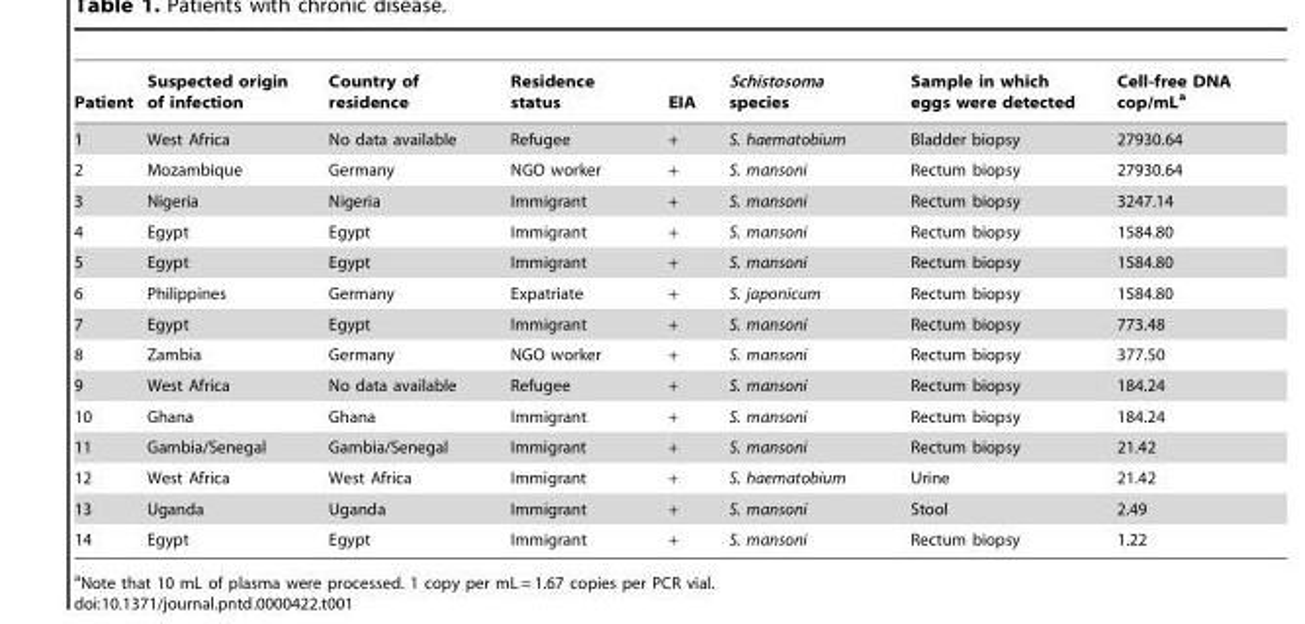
<table><thead><tr><td>Patient</td><td>Suspected origin of infection</td><td>Country of residence</td><td>Residence status</td><td>EIA</td><td>Schistosoma species</td><td>Sample in which eggs were detected</td><td>Cell-free DNA cop/mL<sup>a</sup></td></tr></thead><tbody><tr><td>1</td><td>West Africa</td><td>No data available</td><td>Refugee</td><td>+</td><td>S. haematobium</td><td>Bladder biopsy</td><td>27930.64</td></tr><tr><td>2</td><td>Mozambique</td><td>Germany</td><td>NGO worker</td><td>+</td><td>S. mansoni</td><td>Rectum biopsy</td><td>27930.64</td></tr><tr><td>3</td><td>Nigeria</td><td>Nigeria</td><td>Immigrant</td><td>+</td><td>S. mansoni</td><td>Rectum biopsy</td><td>3247.14</td></tr><tr><td>4</td><td>Egypt</td><td>Egypt</td><td>Immigrant</td><td>+</td><td>S. mansoni</td><td>Rectum biopsy</td><td>1584.80</td></tr><tr><td>5</td><td>Egypt</td><td>Egypt</td><td>Immigrant</td><td>+</td><td>S. mansoni</td><td>Rectum biopsy</td><td>1584.80</td></tr><tr><td>6</td><td>Philippines</td><td>Germany</td><td>Expatriate</td><td>+</td><td>S. japonicum</td><td>Rectum biopsy</td><td>1584.80</td></tr><tr><td>7</td><td>Egypt</td><td>Egypt</td><td>Immigrant</td><td>+</td><td>S. mansoni</td><td>Rectum biopsy</td><td>773.48</td></tr><tr><td>8</td><td>Zambia</td><td>Germany</td><td>NGO worker</td><td>+</td><td>S. mansoni</td><td>Rectum biopsy</td><td>377.50</td></tr><tr><td>9</td><td>West Africa</td><td>No data available</td><td>Refugee</td><td>+</td><td>S. mansoni</td><td>Rectum biopsy</td><td>184.24</td></tr><tr><td>10</td><td>Ghana</td><td>Ghana</td><td>Immigrant</td><td>+</td><td>S. mansoni</td><td>Rectum biopsy</td><td>184.24</td></tr><tr><td>11</td><td>Gambia/Senegal</td><td>Gambia/Senegal</td><td>Immigrant</td><td>+</td><td>S. mansoni</td><td>Rectum biopsy</td><td>21.42</td></tr><tr><td>12</td><td>West Africa</td><td>West Africa</td><td>Immigrant</td><td>+</td><td>S. haematobium</td><td>Urine</td><td>21.42</td></tr><tr><td>13</td><td>Uganda</td><td>Uganda</td><td>Immigrant</td><td>+</td><td>S. mansoni</td><td>Stool</td><td>2.49</td></tr><tr><td>14</td><td>Egypt</td><td>Egypt</td><td>Immigrant</td><td>+</td><td>S. mansoni</td><td>Rectum biopsy</td><td>1.22</td></tr></tbody></table>